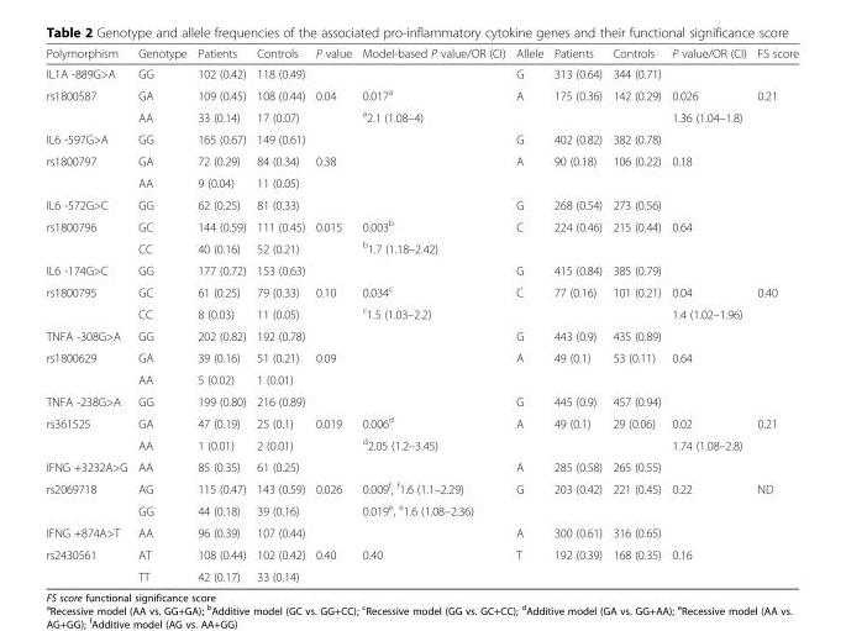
<table><thead><tr><td>Polymorphism</td><td>Genotype</td><td>Patients</td><td>Controls</td><td>P value</td><td>Model-based P value/OR (CI)</td><td>Allele</td><td>Patients</td><td>Controls</td><td>P value/OR (CI)</td><td>FS score</td></tr></thead><tbody><tr><td>IL1A -889G&gt;A</td><td>GG</td><td>102 (0.42)</td><td>118 (0.49)</td><td></td><td></td><td>G</td><td>313 (0.64)</td><td>344 (0.71)</td><td></td><td></td></tr><tr><td rowspan="2">rs1800587</td><td>GA</td><td>109 (0.45)</td><td>108 (0.44)</td><td>0.04</td><td>0.017<sup>a</sup></td><td>A</td><td>175 (0.36)</td><td>142 (0.29)</td><td>0.026</td><td>0.21</td></tr><tr><td>AA</td><td>33 (0.14)</td><td>17 (0.07)</td><td></td><td><sup>a</sup>2.1 (1.08–4)</td><td></td><td></td><td></td><td>1.36 (1.04–1.8)</td><td></td></tr><tr><td>IL6 -597G&gt;A</td><td>GG</td><td>165 (0.67)</td><td>149 (0.61)</td><td></td><td></td><td>G</td><td>402 (0.82)</td><td>382 (0.78)</td><td></td><td></td></tr><tr><td rowspan="2">rs1800797</td><td>GA</td><td>72 (0.29)</td><td>84 (0.34)</td><td>0.38</td><td></td><td>A</td><td>90 (0.18)</td><td>106 (0.22)</td><td>0.18</td><td></td></tr><tr><td>AA</td><td>9 (0.04)</td><td>11 (0.05)</td><td></td><td></td><td></td><td></td><td></td><td></td><td></td></tr><tr><td>IL6 -572G&gt;C</td><td>GG</td><td>62 (0.25)</td><td>81 (0.33)</td><td></td><td></td><td>G</td><td>268 (0.54)</td><td>273 (0.56)</td><td></td><td></td></tr><tr><td rowspan="2">rs1800796</td><td>GC</td><td>144 (0.59)</td><td>111 (0.45)</td><td>0.015</td><td>0.003<sup>b</sup></td><td>C</td><td>224 (0.46)</td><td>215 (0.44)</td><td>0.64</td><td></td></tr><tr><td>CC</td><td>40 (0.16)</td><td>52 (0.21)</td><td></td><td><sup>b</sup>1.7 (1.18–2.42)</td><td></td><td></td><td></td><td></td><td></td></tr><tr><td>IL6 -174G&gt;C</td><td>GG</td><td>177 (0.72)</td><td>153 (0.63)</td><td></td><td></td><td>G</td><td>415 (0.84)</td><td>385 (0.79)</td><td></td><td></td></tr><tr><td rowspan="2">rs1800795</td><td>GC</td><td>61 (0.25)</td><td>79 (0.33)</td><td>0.10</td><td>0.034<sup>c</sup></td><td>C</td><td>77 (0.16)</td><td>101 (0.21)</td><td>0.04</td><td>0.40</td></tr><tr><td>CC</td><td>8 (0.03)</td><td>11 (0.05)</td><td></td><td><sup>c</sup>1.5 (1.03–2.2)</td><td></td><td></td><td></td><td>1.4 (1.02–1.96)</td><td></td></tr><tr><td>TNFA -308G&gt;A</td><td>GG</td><td>202 (0.82)</td><td>192 (0.78)</td><td></td><td></td><td>G</td><td>443 (0.9)</td><td>435 (0.89)</td><td></td><td></td></tr><tr><td rowspan="2">rs1800629</td><td>GA</td><td>39 (0.16)</td><td>51 (0.21)</td><td>0.09</td><td></td><td>A</td><td>49 (0.1)</td><td>53 (0.11)</td><td>0.64</td><td></td></tr><tr><td>AA</td><td>5 (0.02)</td><td>1 (0.01)</td><td></td><td></td><td></td><td></td><td></td><td></td><td></td></tr><tr><td>TNFA -238G&gt;A</td><td>GG</td><td>199 (0.80)</td><td>216 (0.89)</td><td></td><td></td><td>G</td><td>445 (0.9)</td><td>457 (0.94)</td><td></td><td></td></tr><tr><td rowspan="2">rs361525</td><td>GA</td><td>47 (0.19)</td><td>25 (0.1)</td><td>0.019</td><td>0.006<sup>d</sup></td><td>A</td><td>49 (0.1)</td><td>29 (0.06)</td><td>0.02</td><td>0.21</td></tr><tr><td>AA</td><td>1 (0.01)</td><td>2 (0.01)</td><td></td><td><sup>d</sup>2.05 (1.2–3.45)</td><td></td><td></td><td></td><td>1.74 (1.08–2.8)</td><td></td></tr><tr><td>IFNG +3232A&gt;G</td><td>AA</td><td>85 (0.35)</td><td>61 (0.25)</td><td></td><td></td><td>A</td><td>285 (0.58)</td><td>265 (0.55)</td><td></td><td></td></tr><tr><td rowspan="2">rs2069718</td><td>AG</td><td>115 (0.47)</td><td>143 (0.59)</td><td>0.026</td><td>0.009<sup>f</sup>, <sup>f</sup>1.6 (1.1–2.29)</td><td>G</td><td>203 (0.42)</td><td>221 (0.45)</td><td>0.22</td><td>ND</td></tr><tr><td>GG</td><td>44 (0.18)</td><td>39 (0.16)</td><td></td><td>0.019<sup>e</sup>, <sup>e</sup>1.6 (1.08–2.36)</td><td></td><td></td><td></td><td></td><td></td></tr><tr><td>IFNG +874A&gt;T</td><td>AA</td><td>96 (0.39)</td><td>107 (0.44)</td><td></td><td></td><td>A</td><td>300 (0.61)</td><td>316 (0.65)</td><td></td><td></td></tr><tr><td rowspan="2">rs2430561</td><td>AT</td><td>108 (0.44)</td><td>102 (0.42)</td><td>0.40</td><td>0.40</td><td>T</td><td>192 (0.39)</td><td>168 (0.35)</td><td>0.16</td><td></td></tr><tr><td>TT</td><td>42 (0.17)</td><td>33 (0.14)</td><td></td><td></td><td></td><td></td><td></td><td></td><td></td></tr></tbody></table>